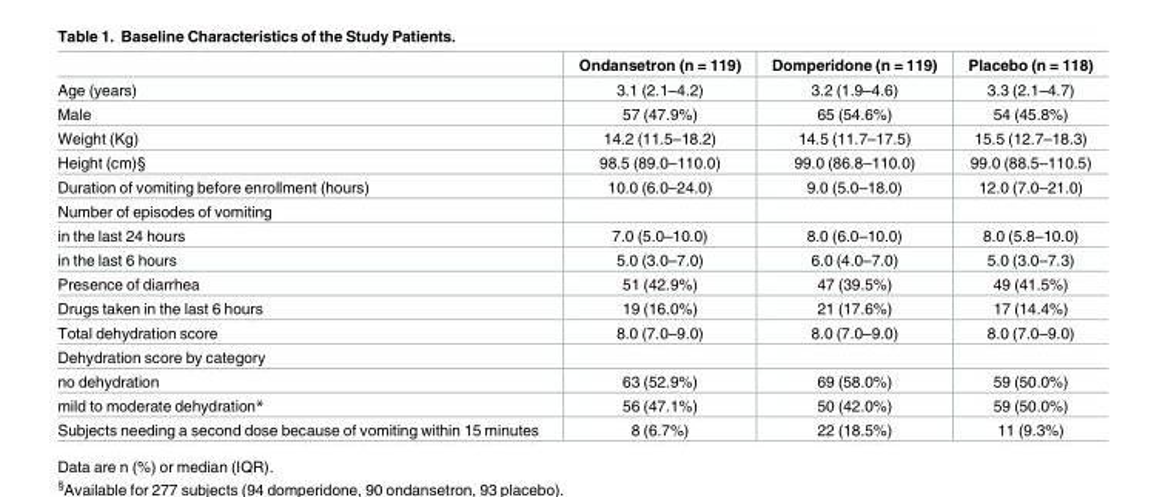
<table><thead><tr><td></td><td>Ondansetron (n = 119)</td><td>Domperidone (n = 119)</td><td>Placebo (n = 118)</td></tr></thead><tbody><tr><td>Age (years)</td><td>3.1 (2.1–4.2)</td><td>3.2 (1.9–4.6)</td><td>3.3 (2.1–4.7)</td></tr><tr><td>Male</td><td>57 (47.9%)</td><td>65 (54.6%)</td><td>54 (45.8%)</td></tr><tr><td>Weight (Kg)</td><td>14.2 (11.5–18.2)</td><td>14.5 (11.7–17.5)</td><td>15.5 (12.7–18.3)</td></tr><tr><td>Height (cm)§</td><td>98.5 (89.0–110.0)</td><td>99.0 (86.8–110.0)</td><td>99.0 (88.5–110.5)</td></tr><tr><td>Duration of vomiting before enrollment (hours)</td><td>10.0 (6.0–24.0)</td><td>9.0 (5.0–18.0)</td><td>12.0 (7.0–21.0)</td></tr><tr><td colspan="4">Number of episodes of vomiting</td></tr><tr><td>in the last 24 hours</td><td>7.0 (5.0–10.0)</td><td>8.0 (6.0–10.0)</td><td>8.0 (5.8–10.0)</td></tr><tr><td>in the last 6 hours</td><td>5.0 (3.0–7.0)</td><td>6.0 (4.0–7.0)</td><td>5.0 (3.0–7.3)</td></tr><tr><td>Presence of diarrhea</td><td>51 (42.9%)</td><td>47 (39.5%)</td><td>49 (41.5%)</td></tr><tr><td>Drugs taken in the last 6 hours</td><td>19 (16.0%)</td><td>21 (17.6%)</td><td>17 (14.4%)</td></tr><tr><td>Total dehydration score</td><td>8.0 (7.0–9.0)</td><td>8.0 (7.0–9.0)</td><td>8.0 (7.0–9.0)</td></tr><tr><td colspan="4">Dehydration score by category</td></tr><tr><td>no dehydration</td><td>63 (52.9%)</td><td>69 (58.0%)</td><td>59 (50.0%)</td></tr><tr><td>mild to moderate dehydration*</td><td>56 (47.1%)</td><td>50 (42.0%)</td><td>59 (50.0%)</td></tr><tr><td>Subjects needing a second dose because of vomiting within 15 minutes</td><td>8 (6.7%)</td><td>22 (18.5%)</td><td>11 (9.3%)</td></tr></tbody></table>